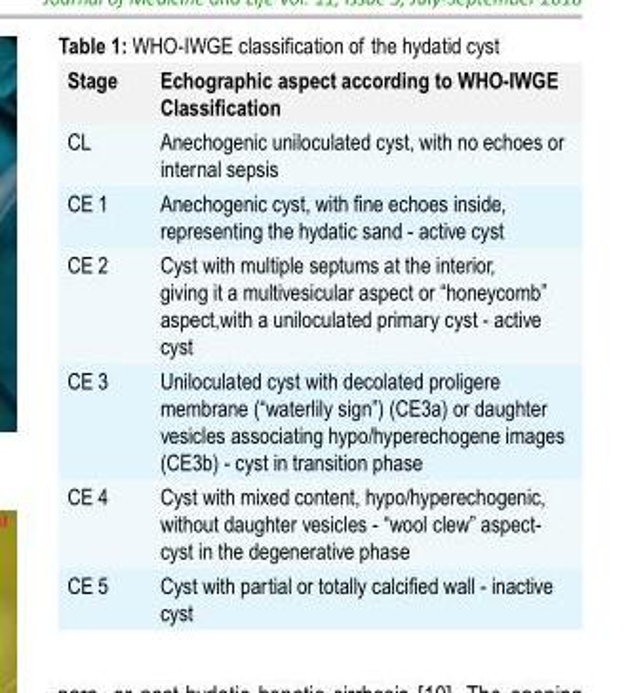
<table><thead><tr><td>Stage</td><td>Echographic aspect according to WHO-IWGE Classification</td></tr></thead><tbody><tr><td>CL</td><td>Anechogenic uniloculated cyst, with no echoes or internal sepsis</td></tr><tr><td>CE 1</td><td>Anechogenic cyst, with fine echoes inside, representing the hydatic sand - active cyst</td></tr><tr><td>CE 2</td><td>Cyst with multiple septums at the interior, giving it a multivesicular aspect or “honeycomb” aspect,with a uniloculated primary cyst - active cyst</td></tr><tr><td>CE 3</td><td>Uniloculated cyst with decolated proligere membrane (“waterlily sign”) (CE3a) or daughter vesicles associating hypo/hyperechogene images (CE3b) - cyst in transition phase</td></tr><tr><td>CE 4</td><td>Cyst with mixed content, hypo/hyperechogenic, without daughter vesicles - “wool clew” aspect- cyst in the degenerative phase</td></tr><tr><td>CE 5</td><td>Cyst with partial or totally calcified wall - inactive cyst</td></tr></tbody></table>